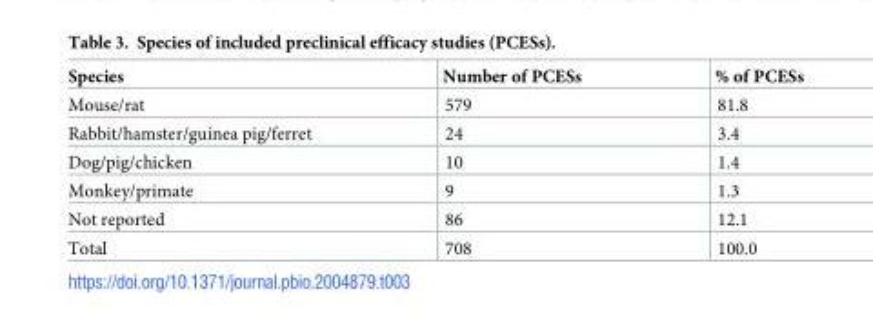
<table><thead><tr><td>Species</td><td>Number of PCESs</td><td>% of PCESs</td></tr></thead><tbody><tr><td>Mouse/rat</td><td>579</td><td>81.8</td></tr><tr><td>Rabbit/hamster/guinea pig/ferret</td><td>24</td><td>3.4</td></tr><tr><td>Dog/pig/chicken</td><td>10</td><td>1.4</td></tr><tr><td>Monkey/primate</td><td>9</td><td>1.3</td></tr><tr><td>Not reported</td><td>86</td><td>12.1</td></tr><tr><td>Total</td><td>708</td><td>100.0</td></tr></tbody></table>